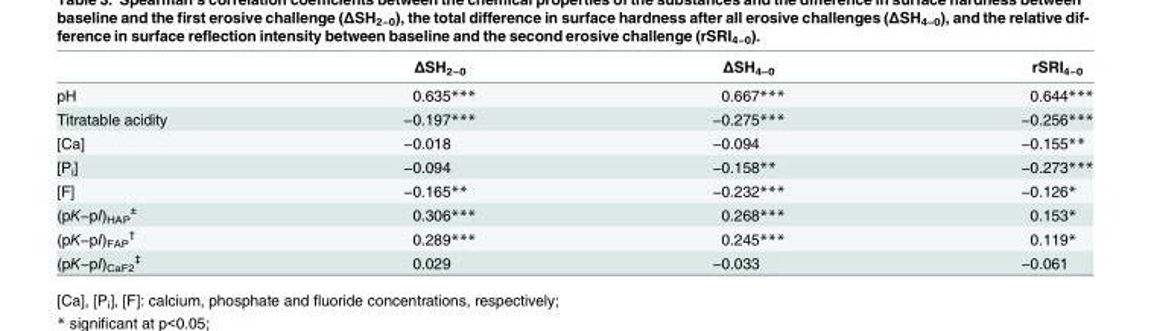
<table><thead><tr><td></td><td>ΔSH<sub>2−0</sub></td><td>ΔSH<sub>4−0</sub></td><td>rSRI<sub>4−0</sub></td></tr></thead><tbody><tr><td>pH</td><td>0.635***</td><td>0.667***</td><td>0.644***</td></tr><tr><td>Titratable acidity</td><td>−0.197***</td><td>−0.275***</td><td>−0.256***</td></tr><tr><td>[Ca]</td><td>−0.018</td><td>−0.094</td><td>−0.155**</td></tr><tr><td>[P<sub>i</sub>]</td><td>−0.094</td><td>−0.158**</td><td>−0.273***</td></tr><tr><td>[F]</td><td>−0.165**</td><td>−0.232***</td><td>−0.126*</td></tr><tr><td>(pK−pI)<sub>HAP</sub> <sup>±</sup></td><td>0.306***</td><td>0.268***</td><td>0.153*</td></tr><tr><td>(pK−pI)<sub>FAP</sub> <sup>†</sup></td><td>0.289***</td><td>0.245***</td><td>0.119*</td></tr><tr><td>(pK−pI)<sub>CaF2</sub> <sup>‡</sup></td><td>0.029</td><td>−0.033</td><td>−0.061</td></tr></tbody></table>